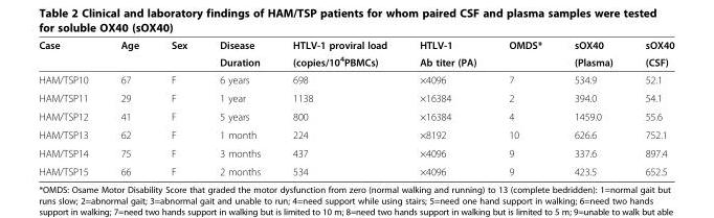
<table><thead><tr><td rowspan="2">Case</td><td rowspan="2">Age</td><td rowspan="2">Sex</td><td rowspan="2">Disease Duration</td><td rowspan="2">HTLV-1 proviral load (copies/10<sup>4</sup>PBMCs)</td><td rowspan="2">HTLV-1 Ab titer (PA)</td><td rowspan="2">OMDS*</td><td rowspan="2">sOX40 (Plasma)</td><td rowspan="2">sOX40 (CSF)</td></tr><tr></tr></thead><tbody><tr><td>HAM/TSP10</td><td>67</td><td>F</td><td>6 years</td><td>698</td><td>×4096</td><td>7</td><td>534.9</td><td>52.1</td></tr><tr><td>HAM/TSP11</td><td>29</td><td>F</td><td>1 year</td><td>1138</td><td>×16384</td><td>2</td><td>394.0</td><td>54.1</td></tr><tr><td>HAM/TSP12</td><td>41</td><td>F</td><td>5 years</td><td>800</td><td>×16384</td><td>4</td><td>1459.0</td><td>55.6</td></tr><tr><td>HAM/TSP13</td><td>62</td><td>F</td><td>1 month</td><td>224</td><td>×8192</td><td>10</td><td>626.6</td><td>752.1</td></tr><tr><td>HAM/TSP14</td><td>75</td><td>F</td><td>3 months</td><td>437</td><td>×4096</td><td>9</td><td>337.6</td><td>897.4</td></tr><tr><td>HAM/TSP15</td><td>66</td><td>F</td><td>2 months</td><td>534</td><td>×4096</td><td>9</td><td>423.5</td><td>652.5</td></tr></tbody></table>